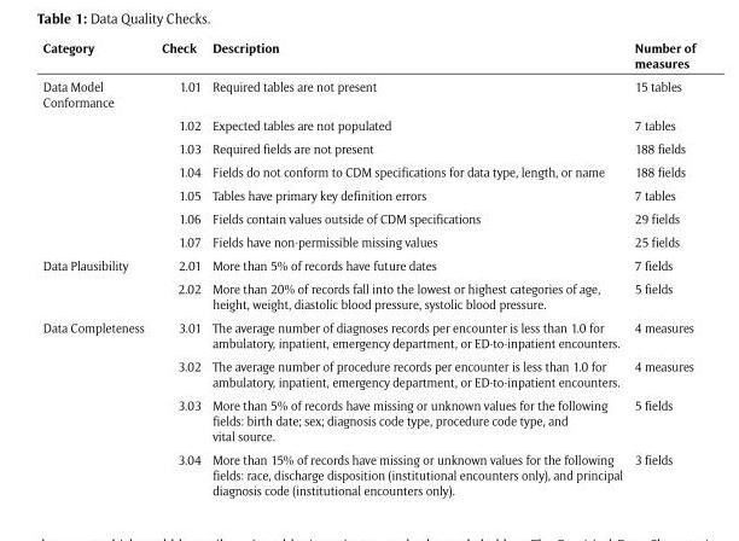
<table><thead><tr><td>Category</td><td>Check</td><td>Description</td><td>Number of measures</td></tr></thead><tbody><tr><td rowspan="7">Data Model Conformance</td><td>1.01</td><td>Required tables are not present</td><td>15 tables</td></tr><tr><td>1.02</td><td>Expected tables are not populated</td><td>7 tables</td></tr><tr><td>1.03</td><td>Required fields are not present</td><td>188 fields</td></tr><tr><td>1.04</td><td>Fields do not conform to CDM specifications for data type, length, or name</td><td>188 fields</td></tr><tr><td>1.05</td><td>Tables have primary key definition errors</td><td>7 tables</td></tr><tr><td>1.06</td><td>Fields contain values outside of CDM specifications</td><td>29 fields</td></tr><tr><td>1.07</td><td>Fields have non-permissible missing values</td><td>25 fields</td></tr><tr><td rowspan="2">Data Plausibility</td><td>2.01</td><td>More than 5% of records have future dates</td><td>7 fields</td></tr><tr><td>2.02</td><td>More than 20% of records fall into the lowest or highest categories of age, height, weight, diastolic blood pressure, systolic blood pressure.</td><td>5 fields</td></tr><tr><td rowspan="4">Data Completeness</td><td>3.01</td><td>The average number of diagnoses records per encounter is less than 1.0 for ambulatory, inpatient, emergency department, or ED-to-inpatient encounters.</td><td>4 measures</td></tr><tr><td>3.02</td><td>The average number of procedure records per encounter is less than 1.0 for ambulatory, inpatient, emergency department, or ED-to-inpatient encounters.</td><td>4 measures</td></tr><tr><td>3.03</td><td>More than 5% of records have missing or unknown values for the following fields: birth date; sex; diagnosis code type, procedure code type, and vital source.</td><td>5 fields</td></tr><tr><td>3.04</td><td>More than 15% of records have missing or unknown values for the following fields: race, discharge disposition (institutional encounters only), and principal diagnosis code (institutional encounters only).</td><td>3 fields</td></tr></tbody></table>